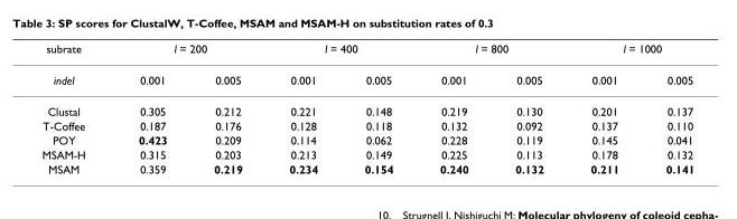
<table><thead><tr><td rowspan="2">subrate indel</td><td colspan="2">l = 200</td><td colspan="2">l = 400</td><td colspan="2">l = 800</td><td colspan="2">l = 1000</td></tr><tr><td>0.001</td><td>0.005</td><td>0.001</td><td>0.005</td><td>0.001</td><td>0.005</td><td>0.001</td><td>0.005</td></tr></thead><tbody><tr><td>Clustal</td><td>0.305</td><td>0.212</td><td>0.221</td><td>0.148</td><td>0.219</td><td>0.130</td><td>0.201</td><td>0.137</td></tr><tr><td>T-Coffee</td><td>0.187</td><td>0.176</td><td>0.128</td><td>0.118</td><td>0.132</td><td>0.092</td><td>0.137</td><td>0.110</td></tr><tr><td>POY</td><td>0.423</td><td>0.209</td><td>0.114</td><td>0.062</td><td>0.228</td><td>0.119</td><td>0.145</td><td>0.041</td></tr><tr><td>MSAM-H</td><td>0.315</td><td>0.203</td><td>0.213</td><td>0.149</td><td>0.225</td><td>0.113</td><td>0.178</td><td>0.132</td></tr><tr><td>MSAM</td><td>0.359</td><td>0.219</td><td>0.234</td><td>0.154</td><td>0.240</td><td>0.132</td><td>0.211</td><td>0.141</td></tr></tbody></table>